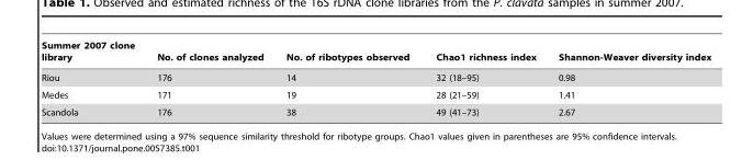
<table><thead><tr><td>Summer 2007 clone library</td><td>No. of clones analyzed</td><td>No. of ribotypes observed</td><td>Chao1 richness index</td><td>Shannon-Weaver diversity index</td></tr></thead><tbody><tr><td>Riou</td><td>176</td><td>14</td><td>32 (18–95)</td><td>0.98</td></tr><tr><td>Medes</td><td>171</td><td>19</td><td>28 (21–59)</td><td>1.41</td></tr><tr><td>Scandola</td><td>176</td><td>38</td><td>49 (41–73)</td><td>2.67</td></tr></tbody></table>